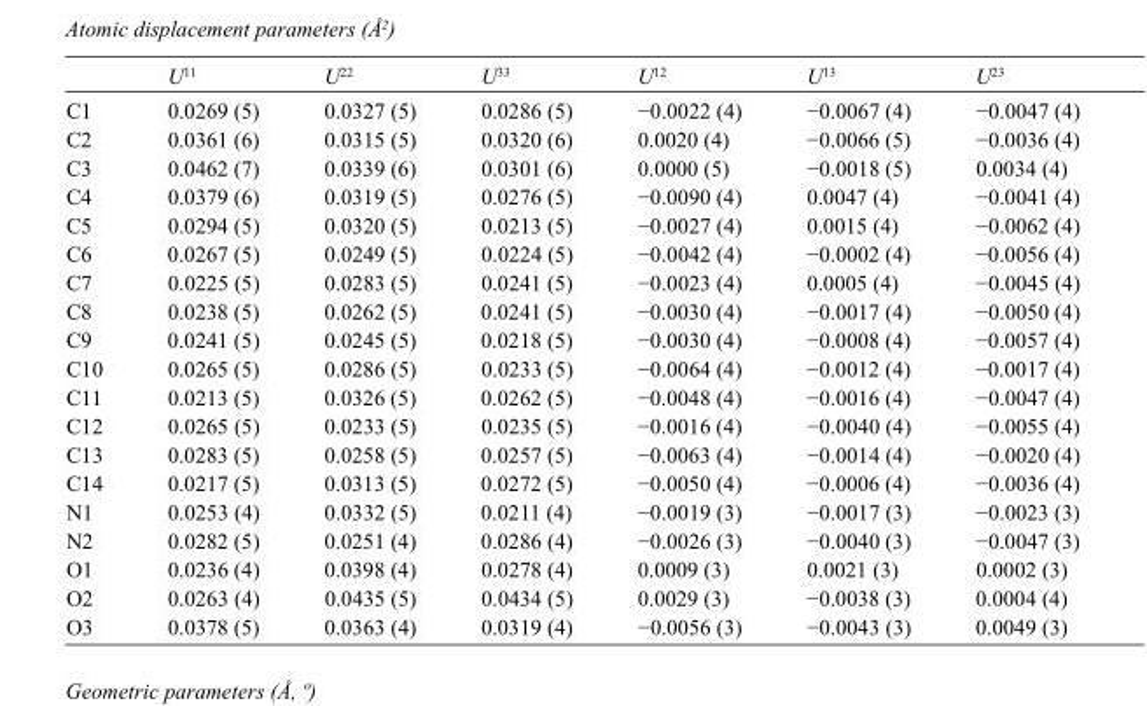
<table><thead><tr><td></td><td>U<sup>11</sup></td><td>U<sup>22</sup></td><td>U<sup>33</sup></td><td>U<sup>12</sup></td><td>U<sup>13</sup></td><td>U<sup>23</sup></td></tr></thead><tbody><tr><td>C1</td><td>0.0269 (5)</td><td>0.0327 (5)</td><td>0.0286 (5)</td><td>−0.0022 (4)</td><td>−0.0067 (4)</td><td>−0.0047 (4)</td></tr><tr><td>C2</td><td>0.0361 (6)</td><td>0.0315 (5)</td><td>0.0320 (6)</td><td>0.0020 (4)</td><td>−0.0066 (5)</td><td>−0.0036 (4)</td></tr><tr><td>C3</td><td>0.0462 (7)</td><td>0.0339 (6)</td><td>0.0301 (6)</td><td>0.0000 (5)</td><td>−0.0018 (5)</td><td>0.0034 (4)</td></tr><tr><td>C4</td><td>0.0379 (6)</td><td>0.0319 (5)</td><td>0.0276 (5)</td><td>−0.0090 (4)</td><td>0.0047 (4)</td><td>−0.0041 (4)</td></tr><tr><td>C5</td><td>0.0294 (5)</td><td>0.0320 (5)</td><td>0.0213 (5)</td><td>−0.0027 (4)</td><td>0.0015 (4)</td><td>−0.0062 (4)</td></tr><tr><td>C6</td><td>0.0267 (5)</td><td>0.0249 (5)</td><td>0.0224 (5)</td><td>−0.0042 (4)</td><td>−0.0002 (4)</td><td>−0.0056 (4)</td></tr><tr><td>C7</td><td>0.0225 (5)</td><td>0.0283 (5)</td><td>0.0241 (5)</td><td>−0.0023 (4)</td><td>0.0005 (4)</td><td>−0.0045 (4)</td></tr><tr><td>C8</td><td>0.0238 (5)</td><td>0.0262 (5)</td><td>0.0241 (5)</td><td>−0.0030 (4)</td><td>−0.0017 (4)</td><td>−0.0050 (4)</td></tr><tr><td>C9</td><td>0.0241 (5)</td><td>0.0245 (5)</td><td>0.0218 (5)</td><td>−0.0030 (4)</td><td>−0.0008 (4)</td><td>−0.0057 (4)</td></tr><tr><td>C10</td><td>0.0265 (5)</td><td>0.0286 (5)</td><td>0.0233 (5)</td><td>−0.0064 (4)</td><td>−0.0012 (4)</td><td>−0.0017 (4)</td></tr><tr><td>C11</td><td>0.0213 (5)</td><td>0.0326 (5)</td><td>0.0262 (5)</td><td>−0.0048 (4)</td><td>−0.0016 (4)</td><td>−0.0047 (4)</td></tr><tr><td>C12</td><td>0.0265 (5)</td><td>0.0233 (5)</td><td>0.0235 (5)</td><td>−0.0016 (4)</td><td>−0.0040 (4)</td><td>−0.0055 (4)</td></tr><tr><td>C13</td><td>0.0283 (5)</td><td>0.0258 (5)</td><td>0.0257 (5)</td><td>−0.0063 (4)</td><td>−0.0014 (4)</td><td>−0.0020 (4)</td></tr><tr><td>C14</td><td>0.0217 (5)</td><td>0.0313 (5)</td><td>0.0272 (5)</td><td>−0.0050 (4)</td><td>−0.0006 (4)</td><td>−0.0036 (4)</td></tr><tr><td>N1</td><td>0.0253 (4)</td><td>0.0332 (5)</td><td>0.0211 (4)</td><td>−0.0019 (3)</td><td>−0.0017 (3)</td><td>−0.0023 (3)</td></tr><tr><td>N2</td><td>0.0282 (5)</td><td>0.0251 (4)</td><td>0.0286 (4)</td><td>−0.0026 (3)</td><td>−0.0040 (3)</td><td>−0.0047 (3)</td></tr><tr><td>O1</td><td>0.0236 (4)</td><td>0.0398 (4)</td><td>0.0278 (4)</td><td>0.0009 (3)</td><td>0.0021 (3)</td><td>0.0002 (3)</td></tr><tr><td>O2</td><td>0.0263 (4)</td><td>0.0435 (5)</td><td>0.0434 (5)</td><td>0.0029 (3)</td><td>−0.0038 (3)</td><td>0.0004 (4)</td></tr><tr><td>O3</td><td>0.0378 (5)</td><td>0.0363 (4)</td><td>0.0319 (4)</td><td>−0.0056 (3)</td><td>−0.0043 (3)</td><td>0.0049 (3)</td></tr></tbody></table>